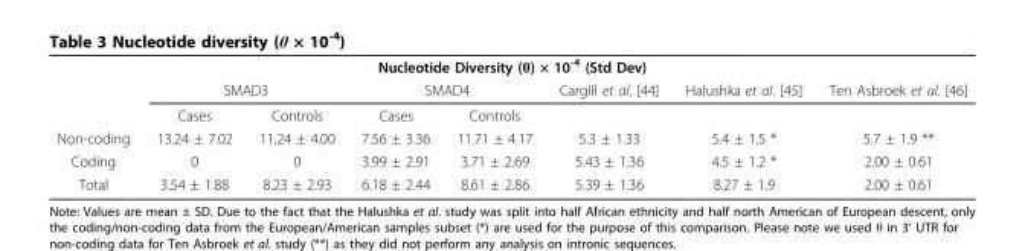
<table><tbody><tr><td colspan="8">Nucleotide Diversity (θ) × 10<sup>-4</sup> (Std Dev)</td></tr><tr><td></td><td colspan="2">SMAD3</td><td colspan="2">SMAD4</td><td>Cargill et al. [44]</td><td>Halushka et al. [45]</td><td>Ten Asbroek et al. [46]</td></tr><tr><td></td><td>Cases</td><td>Controls</td><td>Cases</td><td>Controls</td><td></td><td></td><td></td></tr><tr><td>Non-coding</td><td>13.24 ± 7.02</td><td>11.24 ± 4.00</td><td>7.56 ± 3.36</td><td>11.71 ± 4.17</td><td>5.3 ± 1.33</td><td>5.4 ± 1.5 *</td><td>5.7 ± 1.9 **</td></tr><tr><td>Coding</td><td>0</td><td>0</td><td>3.99 ± 2.91</td><td>3.71 ± 2.69</td><td>5.43 ± 1.36</td><td>4.5 ± 1.2 *</td><td>2.00 ± 0.61</td></tr><tr><td>Total</td><td>3.54 ± 1.88</td><td>8.23 ± 2.93</td><td>6.18 ± 2.44</td><td>8.61 ± 2.86</td><td>5.39 ± 1.36</td><td>8.27 ± 1.9</td><td>2.00 ± 0.61</td></tr></tbody></table>